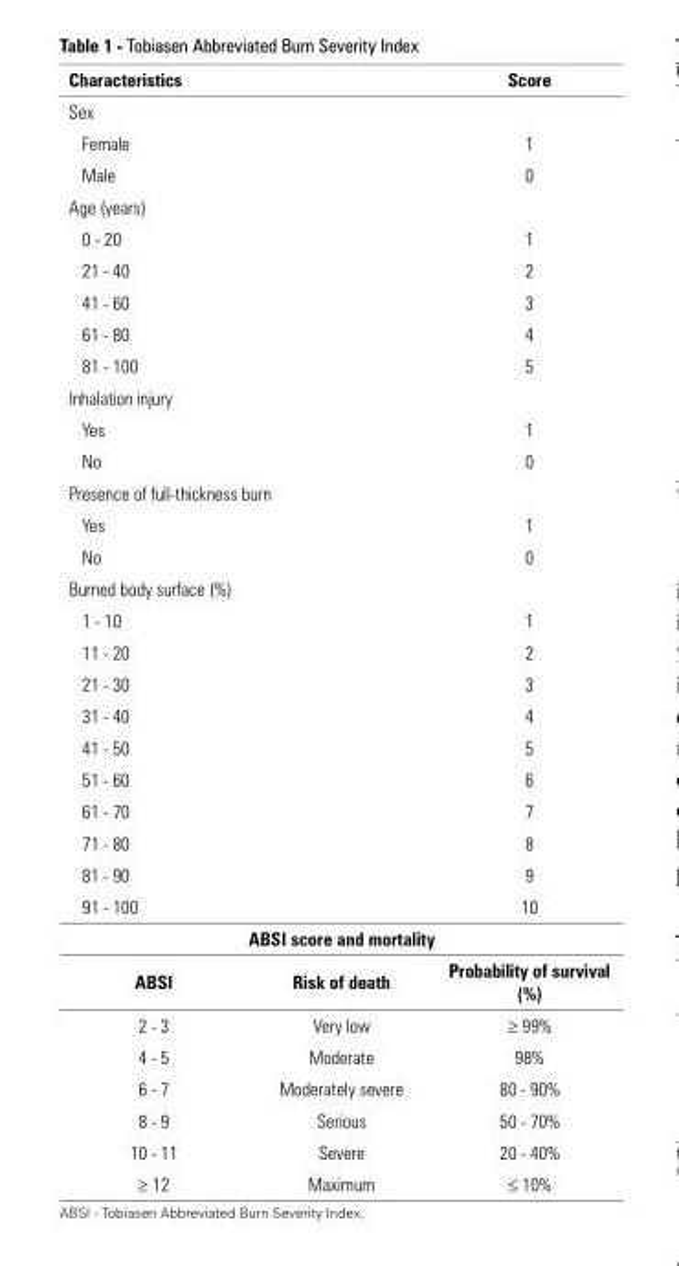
<table><thead><tr><td colspan="2">Characteristics</td><td>Score</td></tr></thead><tbody><tr><td colspan="3">Sex</td></tr><tr><td colspan="2">Female</td><td>1</td></tr><tr><td colspan="2">Male</td><td>0</td></tr><tr><td colspan="3">Age (years)</td></tr><tr><td colspan="2">0 - 20</td><td>1</td></tr><tr><td colspan="2">21 - 40</td><td>2</td></tr><tr><td colspan="2">41 - 60</td><td>3</td></tr><tr><td colspan="2">61 - 80</td><td>4</td></tr><tr><td colspan="2">81 - 100</td><td>5</td></tr><tr><td colspan="3">Inhalation injury</td></tr><tr><td colspan="2">Yes</td><td>1</td></tr><tr><td colspan="2">No</td><td>0</td></tr><tr><td colspan="3">Presence of full-thickness burn</td></tr><tr><td colspan="2">Yes</td><td>1</td></tr><tr><td colspan="2">No</td><td>0</td></tr><tr><td colspan="3">Burned body surface (%)</td></tr><tr><td colspan="2">1 - 10</td><td>1</td></tr><tr><td colspan="2">11 - 20</td><td>2</td></tr><tr><td colspan="2">21 - 30</td><td>3</td></tr><tr><td colspan="2">31 - 40</td><td>4</td></tr><tr><td colspan="2">41 - 50</td><td>5</td></tr><tr><td colspan="2">51 - 60</td><td>6</td></tr><tr><td colspan="2">61 - 70</td><td>7</td></tr><tr><td colspan="2">71 - 80</td><td>8</td></tr><tr><td colspan="2">81 - 90</td><td>9</td></tr><tr><td colspan="2">91 - 100</td><td>10</td></tr><tr><td colspan="3">ABSI score and mortality</td></tr><tr><td>ABSI</td><td>Risk of death</td><td>Probability of survival (%)</td></tr><tr><td>2 - 3</td><td>Very low</td><td>≥ 99%</td></tr><tr><td>4 - 5</td><td>Moderate</td><td>98%</td></tr><tr><td>6 - 7</td><td>Moderately severe</td><td>80 - 90%</td></tr><tr><td>8 - 9</td><td>Serious</td><td>50 - 70%</td></tr><tr><td>10 - 11</td><td>Severe</td><td>20 - 40%</td></tr><tr><td>≥ 12</td><td>Maximum</td><td>≤ 10%</td></tr></tbody></table>